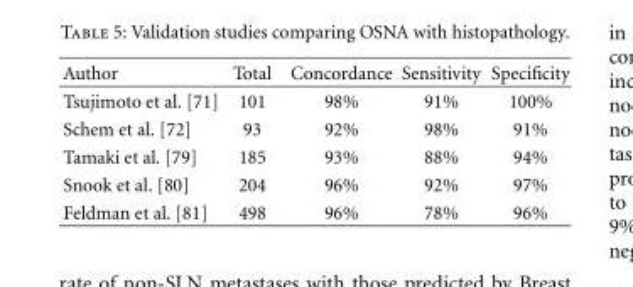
<table><thead><tr><td>Author</td><td>Total</td><td>Concordance</td><td>Sensitivity</td><td>Specificity</td></tr></thead><tbody><tr><td>Tsujimoto et al. [71]</td><td>101</td><td>98%</td><td>91%</td><td>100%</td></tr><tr><td>Schem et al. [72]</td><td>93</td><td>92%</td><td>98%</td><td>91%</td></tr><tr><td>Tamaki et al. [79]</td><td>185</td><td>93%</td><td>88%</td><td>94%</td></tr><tr><td>Snook et al. [80]</td><td>204</td><td>96%</td><td>92%</td><td>97%</td></tr><tr><td>Feldman et al. [81]</td><td>498</td><td>96%</td><td>78%</td><td>96%</td></tr></tbody></table>